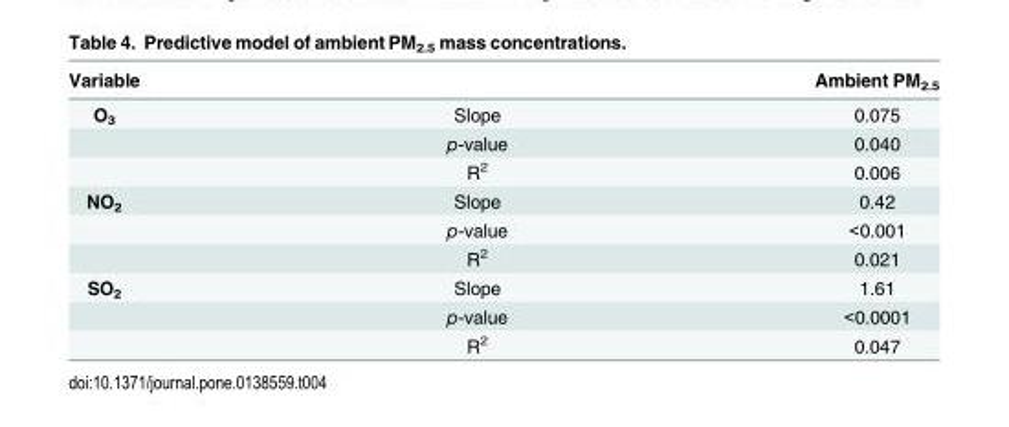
<table><thead><tr><td>Variable</td><td></td><td>Ambient PM<sub>2.5</sub></td></tr></thead><tbody><tr><td rowspan="3">O<sub>3</sub></td><td>Slope</td><td>0.075</td></tr><tr><td>p-value</td><td>0.040</td></tr><tr><td>R<sup>2</sup></td><td>0.006</td></tr><tr><td rowspan="3">NO<sub>2</sub></td><td>Slope</td><td>0.42</td></tr><tr><td>p-value</td><td>&lt;0.001</td></tr><tr><td>R<sup>2</sup></td><td>0.021</td></tr><tr><td rowspan="3">SO<sub>2</sub></td><td>Slope</td><td>1.61</td></tr><tr><td>p-value</td><td>&lt;0.0001</td></tr><tr><td>R<sup>2</sup></td><td>0.047</td></tr></tbody></table>